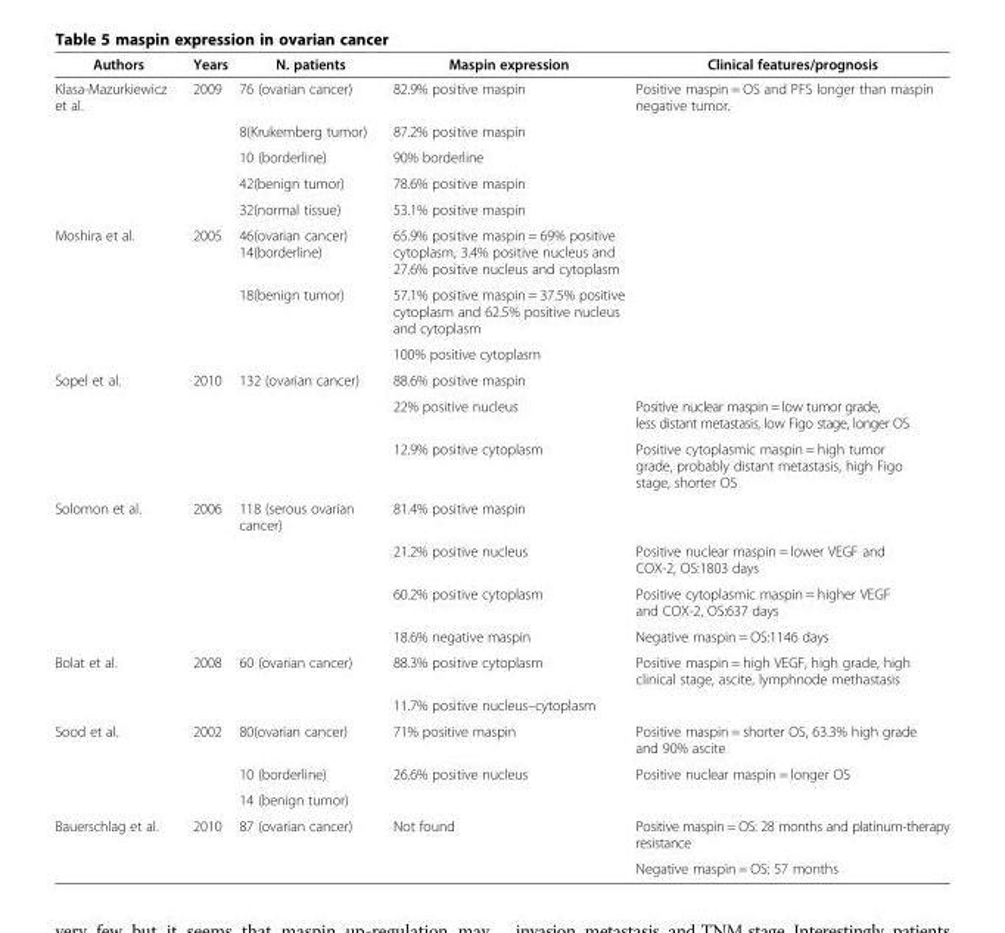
<table><thead><tr><td>Authors</td><td>Years</td><td>N. patients</td><td>Maspin expression</td><td>Clinical features/prognosis</td></tr></thead><tbody><tr><td rowspan="5">Klasa-Mazurkiewicz et al.</td><td>2009</td><td>76 (ovarian cancer)</td><td>82.9% positive maspin</td><td>Positive maspin = OS and PFS longer than maspin negative tumor.</td></tr><tr><td></td><td>8(Krukemberg tumor)</td><td>87.2% positive maspin</td><td></td></tr><tr><td></td><td>10 (borderline)</td><td>90% borderline</td><td></td></tr><tr><td></td><td>42(benign tumor)</td><td>78.6% positive maspin</td><td></td></tr><tr><td></td><td>32(normal tissue)</td><td>53.1% positive maspin</td><td></td></tr><tr><td rowspan="3">Moshira et al.</td><td>2005</td><td>46(ovarian cancer) 14(borderline)</td><td>65.9% positive maspin = 69% positive cytoplasm, 3.4% positive nucleus and 27.6% positive nucleus and cytoplasm</td><td></td></tr><tr><td></td><td>18(benign tumor)</td><td>57.1% positive maspin = 37.5% positive cytoplasm and 62.5% positive nucleus and cytoplasm</td><td></td></tr><tr><td></td><td></td><td>100% positive cytoplasm</td><td></td></tr><tr><td rowspan="3">Sopel et al.</td><td>2010</td><td>132 (ovarian cancer)</td><td>88.6% positive maspin</td><td></td></tr><tr><td></td><td></td><td>22% positive nucleus</td><td>Positive nuclear maspin = low tumor grade, less distant metastasis, low Figo stage, longer OS</td></tr><tr><td></td><td></td><td>12.9% positive cytoplasm</td><td>Positive cytoplasmic maspin = high tumor grade, probably distant metastasis, high Figo stage, shorter OS</td></tr><tr><td rowspan="4">Solomon et al.</td><td>2006</td><td>118 (serous ovarian cancer)</td><td>81.4% positive maspin</td><td></td></tr><tr><td></td><td></td><td>21.2% positive nucleus</td><td>Positive nuclear maspin = lower VEGF and COX-2, OS:1803 days</td></tr><tr><td></td><td></td><td>60.2% positive cytoplasm</td><td>Positive cytoplasmic maspin = higher VEGF and COX-2, OS:637 days</td></tr><tr><td></td><td></td><td>18.6% negative maspin</td><td>Negative maspin = OS:1146 days</td></tr><tr><td rowspan="2">Bolat et al.</td><td>2008</td><td>60 (ovarian cancer)</td><td>88.3% positive cytoplasm</td><td>Positive maspin = high VEGF, high grade, high clinical stage, ascite, lymphnode methastasis</td></tr><tr><td></td><td></td><td>11.7% positive nucleus–cytoplasm</td><td></td></tr><tr><td rowspan="3">Sood et al.</td><td>2002</td><td>80(ovarian cancer)</td><td>71% positive maspin</td><td>Positive maspin = shorter OS, 63.3% high grade and 90% ascite</td></tr><tr><td></td><td>10 (borderline)</td><td>26.6% positive nucleus</td><td>Positive nuclear maspin = longer OS</td></tr><tr><td></td><td>14 (benign tumor)</td><td></td><td></td></tr><tr><td rowspan="2">Bauerschlag et al.</td><td>2010</td><td>87 (ovarian cancer)</td><td>Not found</td><td>Positive maspin = OS: 28 months and platinum-therapy resistance</td></tr><tr><td></td><td></td><td></td><td>Negative maspin = OS: 57 months</td></tr></tbody></table>